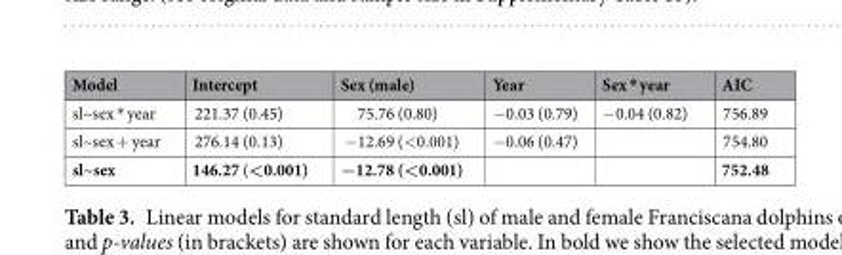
<table><thead><tr><td>Model</td><td>Intercept</td><td>Sex (male)</td><td>Year</td><td>Sex * year</td><td>AIC</td></tr></thead><tbody><tr><td>sl~sex * year</td><td>221.37 (0.45)</td><td>75.76 (0.80)</td><td>−0.03 (0.79)</td><td>−0.04 (0.82)</td><td>756.89</td></tr><tr><td>sl~sex + year</td><td>276.14 (0.13)</td><td>−12.69 (&lt;0.001)</td><td>−0.06 (0.47)</td><td></td><td>754.80</td></tr><tr><td>sl~sex</td><td>146.27 (&lt;0.001)</td><td>−12.78 (&lt;0.001)</td><td></td><td></td><td>752.48</td></tr></tbody></table>